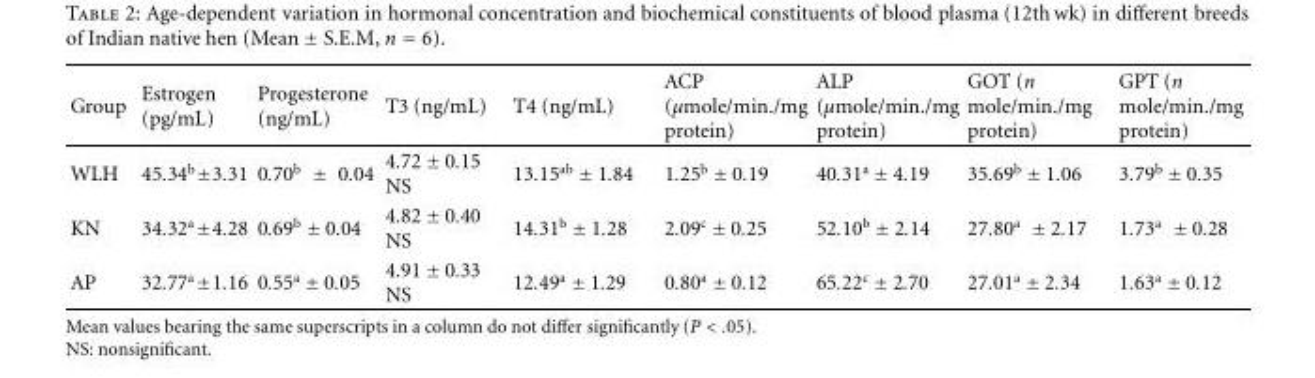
<table><thead><tr><td>Group</td><td>Estrogen (pg/mL)</td><td>Progesterone (ng/mL)</td><td>T3 (ng/mL)</td><td>T4 (ng/mL)</td><td>ACP (µmole/min./mg protein)</td><td>ALP (µmole/min./mg protein)</td><td>GOT (n mole/min./mg protein)</td><td>GPT (n mole/min./mg protein)</td></tr></thead><tbody><tr><td>WLH</td><td>45.34<sup>b</sup>±3.31</td><td>0.70<sup>b</sup> ± 0.04</td><td>4.72 ± 0.15 NS</td><td>13.15<sup>ab</sup> ± 1.84</td><td>1.25<sup>b</sup> ± 0.19</td><td>40.31<sup>a</sup> ± 4.19</td><td>35.69<sup>b</sup> ± 1.06</td><td>3.79<sup>b</sup> ± 0.35</td></tr><tr><td>KN</td><td>34.32<sup>a</sup>±4.28</td><td>0.69<sup>b</sup> ± 0.04</td><td>4.82 ± 0.40 NS</td><td>14.31<sup>b</sup> ± 1.28</td><td>2.09<sup>c</sup> ± 0.25</td><td>52.10<sup>b</sup> ± 2.14</td><td>27.80<sup>a</sup> ± 2.17</td><td>1.73<sup>a</sup> ± 0.28</td></tr><tr><td>AP</td><td>32.77<sup>a</sup>±1.16</td><td>0.55<sup>a</sup> ± 0.05</td><td>4.91 ± 0.33 NS</td><td>12.49<sup>a</sup> ± 1.29</td><td>0.80<sup>a</sup> ± 0.12</td><td>65.22<sup>c</sup> ± 2.70</td><td>27.01<sup>a</sup> ± 2.34</td><td>1.63<sup>a</sup> ± 0.12</td></tr></tbody></table>